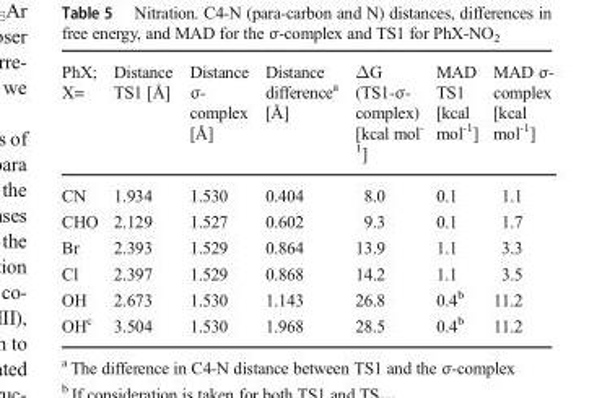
<table><thead><tr><td>PhX; X=</td><td>Distance TS1 [Å]</td><td>Distance σ- complex [Å]</td><td>Distance difference<sup>a</sup> [Å]</td><td>ΔG (TS1-σ- complex) [kcal mol<sup>- 1</sup>]</td><td>MAD TS1 [kcal mol<sup>-1</sup>]</td><td>MAD σ- complex [kcal mol<sup>-1</sup>]</td></tr></thead><tbody><tr><td>CN</td><td>1.934</td><td>1.530</td><td>0.404</td><td>8.0</td><td>0.1</td><td>1.1</td></tr><tr><td>CHO</td><td>2.129</td><td>1.527</td><td>0.602</td><td>9.3</td><td>0.1</td><td>1.7</td></tr><tr><td>Br</td><td>2.393</td><td>1.529</td><td>0.864</td><td>13.9</td><td>1.1</td><td>3.3</td></tr><tr><td>Cl</td><td>2.397</td><td>1.529</td><td>0.868</td><td>14.2</td><td>1.1</td><td>3.5</td></tr><tr><td>OH</td><td>2.673</td><td>1.530</td><td>1.143</td><td>26.8</td><td>0.4<sup>b</sup></td><td>11.2</td></tr><tr><td>OH<sup>c</sup></td><td>3.504</td><td>1.530</td><td>1.968</td><td>28.5</td><td>0.4<sup>b</sup></td><td>11.2</td></tr></tbody></table>